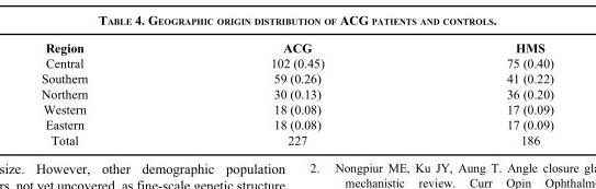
<table><thead><tr><td>Region</td><td>ACG</td><td>HMS</td></tr></thead><tbody><tr><td>Central</td><td>102 (0.45)</td><td>75 (0.40)</td></tr><tr><td>Southern</td><td>59 (0.26)</td><td>41 (0.22)</td></tr><tr><td>Northern</td><td>30 (0.13)</td><td>36 (0.20)</td></tr><tr><td>Western</td><td>18 (0.08)</td><td>17 (0.09)</td></tr><tr><td>Eastern</td><td>18 (0.08)</td><td>17 (0.09)</td></tr><tr><td>Total</td><td>227</td><td>186</td></tr></tbody></table>